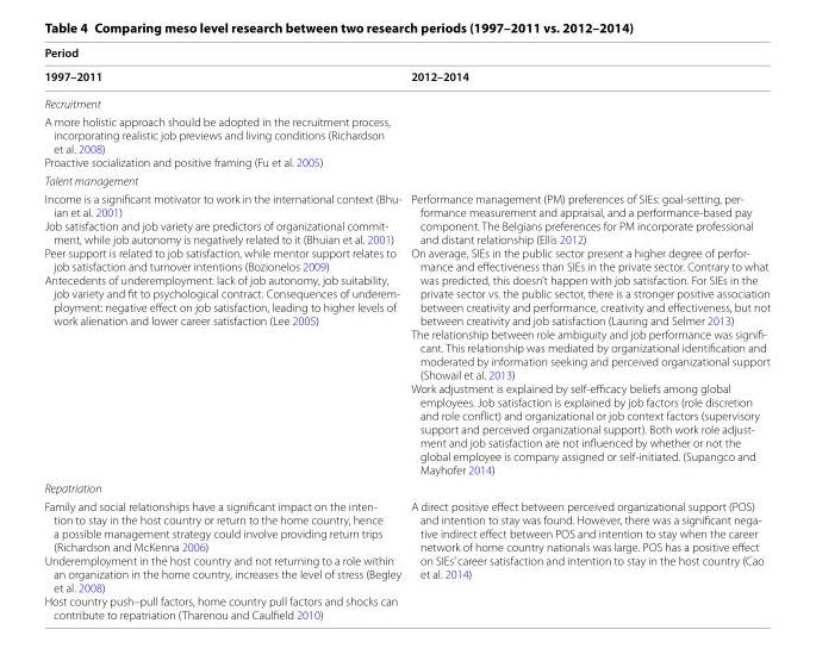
<table><thead><tr><td colspan="2">Period</td></tr><tr><td>1997–2011</td><td>2012–2014</td></tr></thead><tbody><tr><td colspan="2">Recruitment</td></tr><tr><td colspan="2">A more holistic approach should be adopted in the recruitment process, incorporating realistic job previews and living conditions (Richardson et al. 2008) Proactive socialization and positive framing (Fu et al. 2005)</td></tr><tr><td colspan="2">Talent management</td></tr><tr><td>Income is a significant motivator to work in the international context (Bhu- ian et al. 2001) Job satisfaction and job variety are predictors of organizational commit- ment, while job autonomy is negatively related to it (Bhuian et al. 2001) Peer support is related to job satisfaction, while mentor support relates to job satisfaction and turnover intentions (Bozionelos 2009) Antecedents of underemployment: lack of job autonomy, job suitability, job variety and fit to psychological contract. Consequences of underem- ployment: negative effect on job satisfaction, leading to higher levels of work alienation and lower career satisfaction (Lee 2005)</td><td>Performance management (PM) preferences of SIEs: goal-setting, per- formance measurement and appraisal, and a performance-based pay component. The Belgians preferences for PM incorporate professional and distant relationship (Ellis 2012) On average, SIEs in the public sector present a higher degree of perfor- mance and effectiveness than SIEs in the private sector. Contrary to what was predicted, this doesn’t happen with job satisfaction. For SIEs in the private sector vs. the public sector, there is a stronger positive association between creativity and performance, creativity and effectiveness, but not between creativity and job satisfaction (Lauring and Selmer 2013) The relationship between role ambiguity and job performance was signifi- cant. This relationship was mediated by organizational identification and moderated by information seeking and perceived organizational support (Showail et al. 2013) Work adjustment is explained by self-efficacy beliefs among global employees. Job satisfaction is explained by job factors (role discretion and role conflict) and organizational or job context factors (supervisory support and perceived organizational support). Both work role adjust- ment and job satisfaction are not influenced by whether or not the global employee is company assigned or self-initiated. (Supangco and Mayhofer 2014)</td></tr><tr><td colspan="2">Repatriation</td></tr><tr><td>Family and social relationships have a significant impact on the inten- tion to stay in the host country or return to the home country, hence a possible management strategy could involve providing return trips (Richardson and McKenna 2006) Underemployment in the host country and not returning to a role within an organization in the home country, increases the level of stress (Begley et al. 2008) Host country push–pull factors, home country pull factors and shocks can contribute to repatriation (Tharenou and Caulfield 2010)</td><td>A direct positive effect between perceived organizational support (POS) and intention to stay was found. However, there was a significant nega- tive indirect effect between POS and intention to stay when the career network of home country nationals was large. POS has a positive effect on SIEs’ career satisfaction and intention to stay in the host country (Cao et al. 2014)</td></tr></tbody></table>